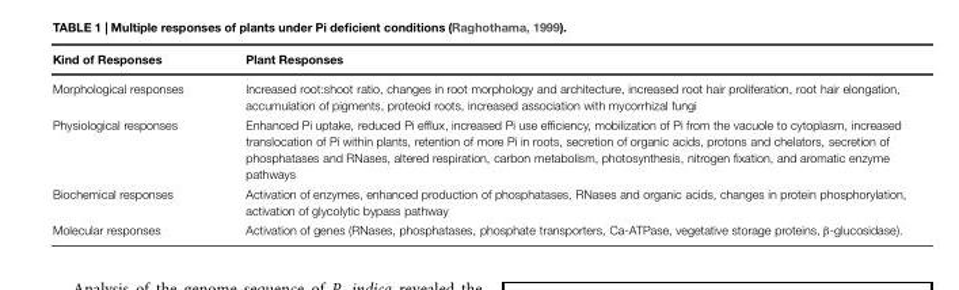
<table><thead><tr><td>Kind of Responses</td><td>Plant Responses</td></tr></thead><tbody><tr><td>Morphological responses</td><td>Increased root:shoot ratio, changes in root morphology and architecture, increased root hair proliferation, root hair elongation, accumulation of pigments, proteoid roots, increased association with mycorrhizal fungi</td></tr><tr><td>Physiological responses</td><td>Enhanced Pi uptake, reduced Pi efflux, increased Pi use efficiency, mobilization of Pi from the vacuole to cytoplasm, increased translocation of Pi within plants, retention of more Pi in roots, secretion of organic acids, protons and chelators, secretion of phosphatases and RNases, altered respiration, carbon metabolism, photosynthesis, nitrogen fixation, and aromatic enzyme pathways</td></tr><tr><td>Biochemical responses</td><td>Activation of enzymes, enhanced production of phosphatases, RNases and organic acids, changes in protein phosphorylation, activation of glycolytic bypass pathway</td></tr><tr><td>Molecular responses</td><td>Activation of genes (RNases, phosphatases, phosphate transporters, Ca-ATPase, vegetative storage proteins, β-glucosidase).</td></tr></tbody></table>